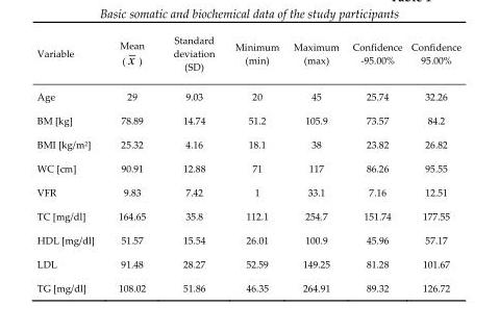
<table><thead><tr><td>Variable</td><td>Mean ( x )</td><td>Standard deviation (SD)</td><td>Minimum (min)</td><td>Maximum (max)</td><td>Confidence -95.00%</td><td>Confidence 95.00%</td></tr></thead><tbody><tr><td>Age</td><td>29</td><td>9.03</td><td>20</td><td>45</td><td>25.74</td><td>32.26</td></tr><tr><td>BM [kg]</td><td>78.89</td><td>14.74</td><td>51.2</td><td>105.9</td><td>73.57</td><td>84.2</td></tr><tr><td>BMI [kg/m<sup>2</sup>]</td><td>25.32</td><td>4.16</td><td>18.1</td><td>38</td><td>23.82</td><td>26.82</td></tr><tr><td>WC [cm]</td><td>90.91</td><td>12.88</td><td>71</td><td>117</td><td>86.26</td><td>95.55</td></tr><tr><td>VFR</td><td>9.83</td><td>7.42</td><td>1</td><td>33.1</td><td>7.16</td><td>12.51</td></tr><tr><td>TC [mg/dl]</td><td>164.65</td><td>35.8</td><td>112.1</td><td>254.7</td><td>151.74</td><td>177.55</td></tr><tr><td>HDL [mg/dl]</td><td>51.57</td><td>15.54</td><td>26.01</td><td>100.9</td><td>45.96</td><td>57.17</td></tr><tr><td>LDL</td><td>91.48</td><td>28.27</td><td>52.59</td><td>149.25</td><td>81.28</td><td>101.67</td></tr><tr><td>TG [mg/dl]</td><td>108.02</td><td>51.86</td><td>46.35</td><td>264.91</td><td>89.32</td><td>126.72</td></tr></tbody></table>